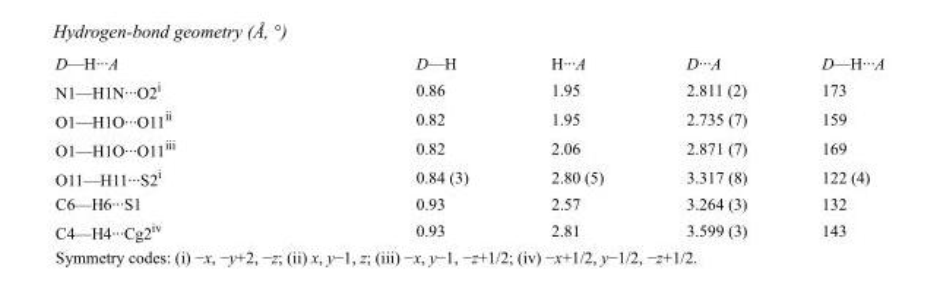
<table><tbody><tr><td>D—H···A</td><td>D—H</td><td>H···A</td><td>D···A</td><td>D—H···A</td></tr><tr><td>N1—H1N···O2<sup>i</sup></td><td>0.86</td><td>1.95</td><td>2.811 (2)</td><td>173</td></tr><tr><td>O1—H1O···O11<sup>ii</sup></td><td>0.82</td><td>1.95</td><td>2.735 (7)</td><td>159</td></tr><tr><td>O1—H1O···O11<sup>iii</sup></td><td>0.82</td><td>2.06</td><td>2.871 (7)</td><td>169</td></tr><tr><td>O11—H11···S2<sup>i</sup></td><td>0.84 (3)</td><td>2.80 (5)</td><td>3.317 (8)</td><td>122 (4)</td></tr><tr><td>C6—H6···S1</td><td>0.93</td><td>2.57</td><td>3.264 (3)</td><td>132</td></tr><tr><td>C4—H4···Cg2<sup>iv</sup></td><td>0.93</td><td>2.81</td><td>3.599 (3)</td><td>143</td></tr></tbody></table>